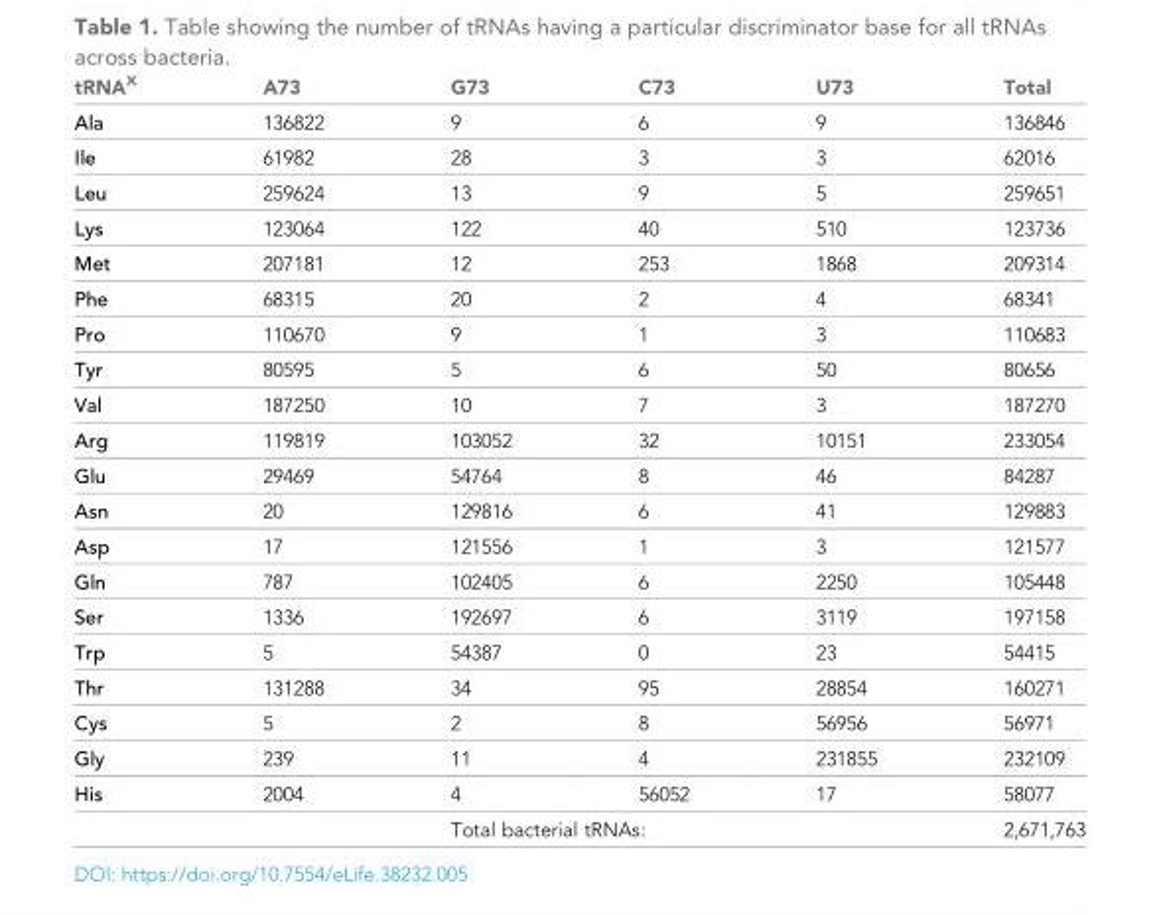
<table><thead><tr><td>tRNA<sup>X</sup></td><td>A73</td><td>G73</td><td>C73</td><td>U73</td><td>Total</td></tr></thead><tbody><tr><td>Ala</td><td>136822</td><td>9</td><td>6</td><td>9</td><td>136846</td></tr><tr><td>Ile</td><td>61982</td><td>28</td><td>3</td><td>3</td><td>62016</td></tr><tr><td>Leu</td><td>259624</td><td>13</td><td>9</td><td>5</td><td>259651</td></tr><tr><td>Lys</td><td>123064</td><td>122</td><td>40</td><td>510</td><td>123736</td></tr><tr><td>Met</td><td>207181</td><td>12</td><td>253</td><td>1868</td><td>209314</td></tr><tr><td>Phe</td><td>68315</td><td>20</td><td>2</td><td>4</td><td>68341</td></tr><tr><td>Pro</td><td>110670</td><td>9</td><td>1</td><td>3</td><td>110683</td></tr><tr><td>Tyr</td><td>80595</td><td>5</td><td>6</td><td>50</td><td>80656</td></tr><tr><td>Val</td><td>187250</td><td>10</td><td>7</td><td>3</td><td>187270</td></tr><tr><td>Arg</td><td>119819</td><td>103052</td><td>32</td><td>10151</td><td>233054</td></tr><tr><td>Glu</td><td>29469</td><td>54764</td><td>8</td><td>46</td><td>84287</td></tr><tr><td>Asn</td><td>20</td><td>129816</td><td>6</td><td>41</td><td>129883</td></tr><tr><td>Asp</td><td>17</td><td>121556</td><td>1</td><td>3</td><td>121577</td></tr><tr><td>Gln</td><td>787</td><td>102405</td><td>6</td><td>2250</td><td>105448</td></tr><tr><td>Ser</td><td>1336</td><td>192697</td><td>6</td><td>3119</td><td>197158</td></tr><tr><td>Trp</td><td>5</td><td>54387</td><td>0</td><td>23</td><td>54415</td></tr><tr><td>Thr</td><td>131288</td><td>34</td><td>95</td><td>28854</td><td>160271</td></tr><tr><td>Cys</td><td>5</td><td>2</td><td>8</td><td>56956</td><td>56971</td></tr><tr><td>Gly</td><td>239</td><td>11</td><td>4</td><td>231855</td><td>232109</td></tr><tr><td rowspan="2">His</td><td>2004</td><td>4</td><td>56052</td><td>17</td><td>58077</td></tr><tr><td></td><td colspan="3">Total bacterial tRNAs:</td><td>2,671,763</td></tr></tbody></table>